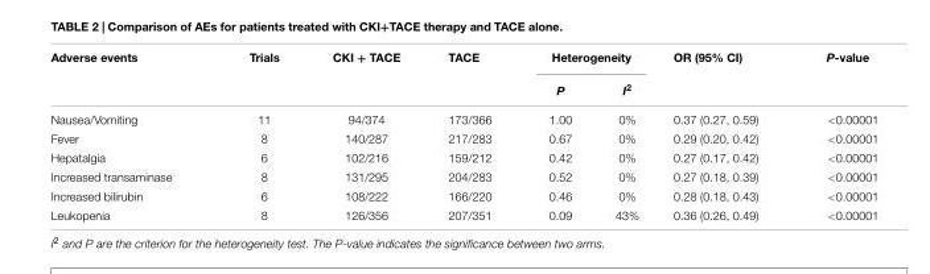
<table><thead><tr><td rowspan="2">Adverse events</td><td rowspan="2">Trials</td><td rowspan="2">CKI + TACE</td><td rowspan="2">TACE</td><td colspan="2">Heterogeneity</td><td rowspan="2">OR (95% CI)</td><td rowspan="2">P-value</td></tr><tr><td>P</td><td>I<sup>2</sup></td></tr></thead><tbody><tr><td>Nausea/Vomiting</td><td>11</td><td>94/374</td><td>173/366</td><td>1.00</td><td>0%</td><td>0.37 (0.27, 0.59)</td><td>&lt;0.00001</td></tr><tr><td>Fever</td><td>8</td><td>140/287</td><td>217/283</td><td>0.67</td><td>0%</td><td>0.29 (0.20, 0.42)</td><td>&lt;0.00001</td></tr><tr><td>Hepatalgia</td><td>6</td><td>102/216</td><td>159/212</td><td>0.42</td><td>0%</td><td>0.27 (0.17, 0.42)</td><td>&lt;0.00001</td></tr><tr><td>Increased transaminase</td><td>8</td><td>131/295</td><td>204/283</td><td>0.52</td><td>0%</td><td>0.27 (0.18, 0.39)</td><td>&lt;0.00001</td></tr><tr><td>Increased bilirubin</td><td>6</td><td>108/222</td><td>166/220</td><td>0.46</td><td>0%</td><td>0.28 (0.18, 0.43)</td><td>&lt;0.00001</td></tr><tr><td>Leukopenia</td><td>8</td><td>126/356</td><td>207/351</td><td>0.09</td><td>43%</td><td>0.36 (0.26, 0.49)</td><td>&lt;0.00001</td></tr></tbody></table>